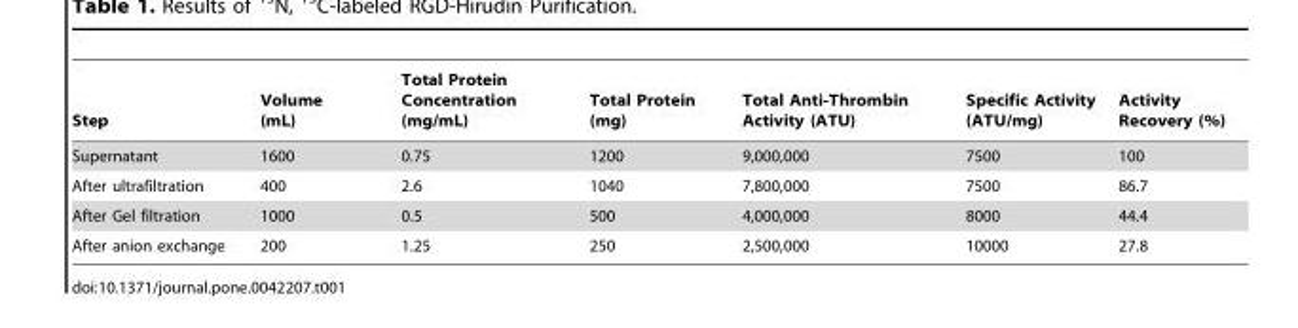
<table><thead><tr><td>Step</td><td>Volume (mL)</td><td>Total Protein Concentration (mg/mL)</td><td>Total Protein (mg)</td><td>Total Anti-Thrombin Activity (ATU)</td><td>Specific Activity (ATU/mg)</td><td>Activity Recovery (%)</td></tr></thead><tbody><tr><td>Supernatant</td><td>1600</td><td>0.75</td><td>1200</td><td>9,000,000</td><td>7500</td><td>100</td></tr><tr><td>After ultrafiltration</td><td>400</td><td>2.6</td><td>1040</td><td>7,800,000</td><td>7500</td><td>86.7</td></tr><tr><td>After Gel filtration</td><td>1000</td><td>0.5</td><td>500</td><td>4,000,000</td><td>8000</td><td>44.4</td></tr><tr><td>After anion exchange</td><td>200</td><td>1.25</td><td>250</td><td>2,500,000</td><td>10000</td><td>27.8</td></tr></tbody></table>